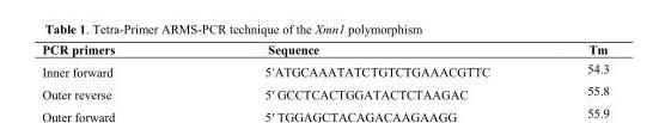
<table><thead><tr><td>PCR primers</td><td>Sequence</td><td>Tm</td></tr></thead><tbody><tr><td>Inner forward</td><td>5̕ATGCAAATATCTGTCTGAAACGTTC</td><td>54.3</td></tr></tbody></table>